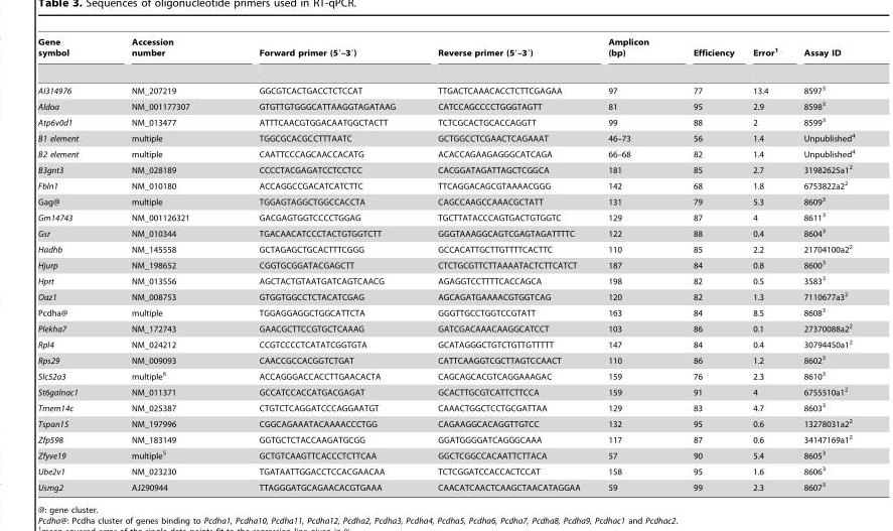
<table><thead><tr><td>Gene symbol</td><td>Accession number</td><td>Forward primer (5′–3′)</td><td>Reverse primer (5′–3′)</td><td>Amplicon (bp)</td><td>Efficiency</td><td>Error<sup>1</sup></td><td>Assay ID</td></tr></thead><tbody><tr><td>AI314976</td><td>NM_207219</td><td>GGCGTCACTGACCTCTCCAT</td><td>TTGACTCAAACACCTCTTCGAGAA</td><td>97</td><td>77</td><td>13.4</td><td>8597<sup>3</sup></td></tr><tr><td>Aldoa</td><td>NM_001177307</td><td>GTGTTGTGGGCATTAAGGTAGATAAG</td><td>CATCCAGCCCCTGGGTAGTT</td><td>81</td><td>95</td><td>2.9</td><td>8598<sup>3</sup></td></tr><tr><td>Atp6v0d1</td><td>NM_013477</td><td>ATTTCAACGTGGACAATGGCTACTT</td><td>TCTCGCACTGCACCAGGTT</td><td>99</td><td>88</td><td>2</td><td>8599<sup>3</sup></td></tr><tr><td>B1 element</td><td>multiple</td><td>TGGCGCACGCCTTTAATC</td><td>GCTGGCCTCGAACTCAGAAAT</td><td>46–73</td><td>56</td><td>1.4</td><td>Unpublished<sup>4</sup></td></tr><tr><td>B2 element</td><td>multiple</td><td>CAATTCCCAGCAACCACATG</td><td>ACACCAGAAGAGGGCATCAGA</td><td>66–68</td><td>82</td><td>1.4</td><td>Unpublished<sup>4</sup></td></tr><tr><td>B3gnt3</td><td>NM_028189</td><td>CCCCTACGAGATCCTCCTCC</td><td>CACGGATAGATTAGCTCGGCA</td><td>181</td><td>85</td><td>2.7</td><td>31982625a1<sup>2</sup></td></tr><tr><td>Fbln1</td><td>NM_010180</td><td>ACCAGGCCGACATCATCTTC</td><td>TTCAGGACAGCGTAAAACGGG</td><td>142</td><td>68</td><td>1.8</td><td>6753822a2<sup>2</sup></td></tr><tr><td>Gag@</td><td>multiple</td><td>TGGAGTAGGCTGGCCACCTA</td><td>CAGCCAAGCCAAACGCTATT</td><td>131</td><td>79</td><td>5.3</td><td>8609<sup>3</sup></td></tr><tr><td>Gm14743</td><td>NM_001126321</td><td>GACGAGTGGTCCCCTGGAG</td><td>TGCTTATACCCAGTGACTGTGGTC</td><td>129</td><td>87</td><td>4</td><td>8611<sup>3</sup></td></tr><tr><td>Gsr</td><td>NM_010344</td><td>TGACAACATCCCTACTGTGGTCTT</td><td>GGGTAAAGGCAGTCGAGTAGATTTTC</td><td>122</td><td>88</td><td>0.4</td><td>8604<sup>3</sup></td></tr><tr><td>Hadhb</td><td>NM_145558</td><td>GCTAGAGCTGCACTTTCGGG</td><td>GCCACATTGCTTGTTTTCACTTC</td><td>110</td><td>85</td><td>2.2</td><td>21704100a2<sup>2</sup></td></tr><tr><td>Hjurp</td><td>NM_198652</td><td>CGGTGCGGATACGAGCTT</td><td>CTCTGCGTTCTTAAAATACTCTTCATCT</td><td>187</td><td>84</td><td>0.8</td><td>8600<sup>3</sup></td></tr><tr><td>Hprt</td><td>NM_013556</td><td>AGCTACTGTAATGATCAGTCAACG</td><td>AGAGGTCCTTTTCACCAGCA</td><td>198</td><td>82</td><td>0.5</td><td>3583<sup>3</sup></td></tr><tr><td>Oaz1</td><td>NM_008753</td><td>GTGGTGGCCTCTACATCGAG</td><td>AGCAGATGAAAACGTGGTCAG</td><td>120</td><td>82</td><td>1.3</td><td>7110677a3<sup>2</sup></td></tr><tr><td>Pcdha@</td><td>multiple</td><td>TGGAGGAGGCTGGCATTCTA</td><td>GGGTTGCCTGGTCCGTATT</td><td>163</td><td>84</td><td>8.5</td><td>8608<sup>3</sup></td></tr><tr><td>Plekha7</td><td>NM_172743</td><td>GAACGCTTCCGTGCTCAAAG</td><td>GATCGACAAACAAGGCATCCT</td><td>103</td><td>86</td><td>0.1</td><td>27370088a2<sup>2</sup></td></tr><tr><td>Rpl4</td><td>NM_024212</td><td>CCGTCCCCTCATATCGGTGTA</td><td>GCATAGGGCTGTCTGTTGTTTTT</td><td>147</td><td>84</td><td>0.4</td><td>30794450a1<sup>2</sup></td></tr><tr><td>Rps29</td><td>NM_009093</td><td>CAACCGCCACGGTCTGAT</td><td>CATTCAAGGTCGCTTAGTCCAACT</td><td>110</td><td>86</td><td>1.2</td><td>8602<sup>3</sup></td></tr><tr><td>Slc52a3</td><td>multiple<sup>6</sup></td><td>ACCAGGGACCACCTTGAACACTA</td><td>CAGCAGCACGTCAGGAAAGAC</td><td>159</td><td>76</td><td>2.3</td><td>8610<sup>3</sup></td></tr><tr><td>St6galnac1</td><td>NM_011371</td><td>GCCATCCACCATGACGAGAT</td><td>GCACTTGCGTCATTCTTCCA</td><td>159</td><td>91</td><td>4</td><td>6755510a1<sup>2</sup></td></tr><tr><td>Tmem14c</td><td>NM_025387</td><td>CTGTCTCAGGATCCCAGGAATGT</td><td>CAAACTGGCTCCTGCGATTAA</td><td>129</td><td>83</td><td>4.7</td><td>8603<sup>3</sup></td></tr><tr><td>Tspan15</td><td>NM_197996</td><td>CGGCAGAAATACAAAACCCTGG</td><td>CAGAAGGCACAGGTTGTCC</td><td>132</td><td>95</td><td>0.6</td><td>13278031a2<sup>2</sup></td></tr><tr><td>Zfp598</td><td>NM_183149</td><td>GGTGCTCTACCAAGATGCGG</td><td>GGATGGGGATCAGGGCAAA</td><td>117</td><td>87</td><td>0.6</td><td>34147169a1<sup>2</sup></td></tr><tr><td>Zfyve19</td><td>multiple<sup>5</sup></td><td>GCTGTCAAGTTCACCCTCTTCAA</td><td>GGCTCGGCCACAATTCTTACA</td><td>57</td><td>90</td><td>5.4</td><td>8605<sup>3</sup></td></tr><tr><td>Ube2v1</td><td>NM_023230</td><td>TGATAATTGGACCTCCACGAACAA</td><td>TCTCGGATCCACCACTCCAT</td><td>158</td><td>95</td><td>1.6</td><td>8606<sup>3</sup></td></tr><tr><td>Usmg2</td><td>AJ290944</td><td>TTAGGGATGCAGAACACGTGAAA</td><td>CAACATCAACTCAAGCTAACATAGGAA</td><td>59</td><td>99</td><td>2.3</td><td>8607<sup>3</sup></td></tr></tbody></table>